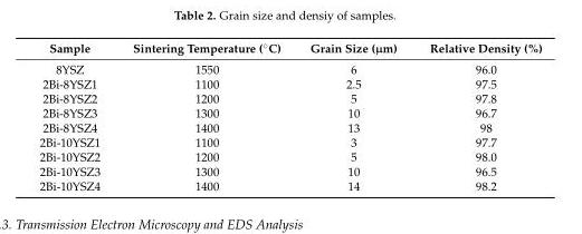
<table><thead><tr><td>Sample</td><td>Sintering Temperature (˝C)</td><td>Grain Size (µm)</td><td>Relative Density (%)</td></tr></thead><tbody><tr><td>8YSZ</td><td>1550</td><td>6</td><td>96.0</td></tr><tr><td>2Bi-8YSZ1</td><td>1100</td><td>2.5</td><td>97.5</td></tr><tr><td>2Bi-8YSZ2</td><td>1200</td><td>5</td><td>97.8</td></tr><tr><td>2Bi-8YSZ3</td><td>1300</td><td>10</td><td>96.7</td></tr><tr><td>2Bi-8YSZ4</td><td>1400</td><td>13</td><td>98</td></tr><tr><td>2Bi-10YSZ1</td><td>1100</td><td>3</td><td>97.7</td></tr><tr><td>2Bi-10YSZ2</td><td>1200</td><td>5</td><td>98.0</td></tr><tr><td>2Bi-10YSZ3</td><td>1300</td><td>10</td><td>96.5</td></tr><tr><td>2Bi-10YSZ4</td><td>1400</td><td>14</td><td>98.2</td></tr></tbody></table>